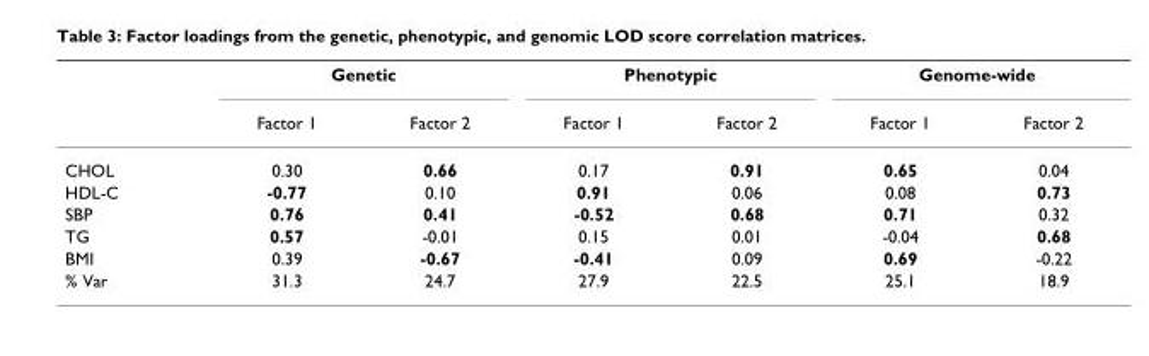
<table><thead><tr><td rowspan="2"></td><td colspan="2">Genetic</td><td colspan="2">Phenotypic</td><td colspan="2">Genome-wide</td></tr><tr><td>Factor 1</td><td>Factor 2</td><td>Factor 1</td><td>Factor 2</td><td>Factor 1</td><td>Factor 2</td></tr></thead><tbody><tr><td>CHOL</td><td>0.30</td><td>0.66</td><td>0.17</td><td>0.91</td><td>0.65</td><td>0.04</td></tr><tr><td>HDL-C</td><td>-0.77</td><td>0.10</td><td>0.91</td><td>0.06</td><td>0.08</td><td>0.73</td></tr><tr><td>SBP</td><td>0.76</td><td>0.41</td><td>-0.52</td><td>0.68</td><td>0.71</td><td>0.32</td></tr><tr><td>TG</td><td>0.57</td><td>-0.01</td><td>0.15</td><td>0.01</td><td>-0.04</td><td>0.68</td></tr><tr><td>BMI</td><td>0.39</td><td>-0.67</td><td>-0.41</td><td>0.09</td><td>0.69</td><td>-0.22</td></tr><tr><td>% Var</td><td>31.3</td><td>24.7</td><td>27.9</td><td>22.5</td><td>25.1</td><td>18.9</td></tr></tbody></table>